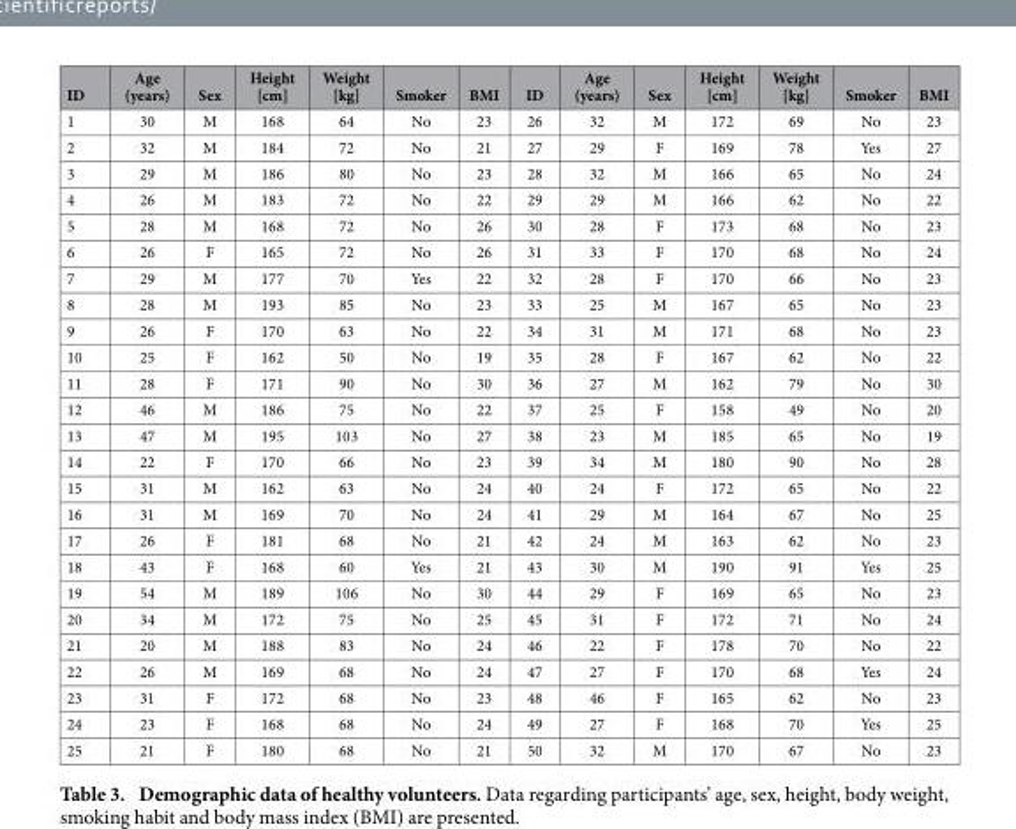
<table><thead><tr><td>ID</td><td>Age (years)</td><td>Sex</td><td>Height [cm]</td><td>Weight [kg]</td><td>Smoker</td><td>BMI</td><td>ID</td><td>Age (years)</td><td>Sex</td><td>Height [cm]</td><td>Weight [kg]</td><td>Smoker</td><td>BMI</td></tr></thead><tbody><tr><td>1</td><td>30</td><td>M</td><td>168</td><td>64</td><td>No</td><td>23</td><td>26</td><td>32</td><td>M</td><td>172</td><td>69</td><td>No</td><td>23</td></tr><tr><td>2</td><td>32</td><td>M</td><td>184</td><td>72</td><td>No</td><td>21</td><td>27</td><td>29</td><td>F</td><td>169</td><td>78</td><td>Yes</td><td>27</td></tr><tr><td>3</td><td>29</td><td>M</td><td>186</td><td>80</td><td>No</td><td>23</td><td>28</td><td>32</td><td>M</td><td>166</td><td>65</td><td>No</td><td>24</td></tr><tr><td>4</td><td>26</td><td>M</td><td>183</td><td>72</td><td>No</td><td>22</td><td>29</td><td>29</td><td>M</td><td>166</td><td>62</td><td>No</td><td>22</td></tr><tr><td>5</td><td>28</td><td>M</td><td>168</td><td>72</td><td>No</td><td>26</td><td>30</td><td>28</td><td>F</td><td>173</td><td>68</td><td>No</td><td>23</td></tr><tr><td>6</td><td>26</td><td>F</td><td>165</td><td>72</td><td>No</td><td>26</td><td>31</td><td>33</td><td>F</td><td>170</td><td>68</td><td>No</td><td>24</td></tr><tr><td>7</td><td>29</td><td>M</td><td>177</td><td>70</td><td>Yes</td><td>22</td><td>32</td><td>28</td><td>F</td><td>170</td><td>66</td><td>No</td><td>23</td></tr><tr><td>8</td><td>28</td><td>M</td><td>193</td><td>85</td><td>No</td><td>23</td><td>33</td><td>25</td><td>M</td><td>167</td><td>65</td><td>No</td><td>23</td></tr><tr><td>9</td><td>26</td><td>F</td><td>170</td><td>63</td><td>No</td><td>22</td><td>34</td><td>31</td><td>M</td><td>171</td><td>68</td><td>No</td><td>23</td></tr><tr><td>10</td><td>25</td><td>F</td><td>162</td><td>50</td><td>No</td><td>19</td><td>35</td><td>28</td><td>F</td><td>167</td><td>62</td><td>No</td><td>22</td></tr><tr><td>11</td><td>28</td><td>F</td><td>171</td><td>90</td><td>No</td><td>30</td><td>36</td><td>27</td><td>M</td><td>162</td><td>79</td><td>No</td><td>30</td></tr><tr><td>12</td><td>46</td><td>M</td><td>186</td><td>75</td><td>No</td><td>22</td><td>37</td><td>25</td><td>F</td><td>158</td><td>49</td><td>No</td><td>20</td></tr><tr><td>13</td><td>47</td><td>M</td><td>195</td><td>103</td><td>No</td><td>27</td><td>38</td><td>23</td><td>M</td><td>185</td><td>65</td><td>No</td><td>19</td></tr><tr><td>14</td><td>22</td><td>F</td><td>170</td><td>66</td><td>No</td><td>23</td><td>39</td><td>34</td><td>M</td><td>180</td><td>90</td><td>No</td><td>28</td></tr><tr><td>15</td><td>31</td><td>M</td><td>162</td><td>63</td><td>No</td><td>24</td><td>40</td><td>24</td><td>F</td><td>172</td><td>65</td><td>No</td><td>22</td></tr><tr><td>16</td><td>31</td><td>M</td><td>169</td><td>70</td><td>No</td><td>24</td><td>41</td><td>29</td><td>M</td><td>164</td><td>67</td><td>No</td><td>25</td></tr><tr><td>17</td><td>26</td><td>F</td><td>181</td><td>68</td><td>No</td><td>21</td><td>42</td><td>24</td><td>M</td><td>163</td><td>62</td><td>No</td><td>23</td></tr><tr><td>18</td><td>43</td><td>F</td><td>168</td><td>60</td><td>Yes</td><td>21</td><td>43</td><td>30</td><td>M</td><td>190</td><td>91</td><td>Yes</td><td>25</td></tr><tr><td>19</td><td>54</td><td>M</td><td>189</td><td>106</td><td>No</td><td>30</td><td>44</td><td>29</td><td>F</td><td>169</td><td>65</td><td>No</td><td>23</td></tr><tr><td>20</td><td>34</td><td>M</td><td>172</td><td>75</td><td>No</td><td>25</td><td>45</td><td>31</td><td>F</td><td>172</td><td>71</td><td>No</td><td>24</td></tr><tr><td>21</td><td>20</td><td>M</td><td>188</td><td>83</td><td>No</td><td>24</td><td>46</td><td>22</td><td>F</td><td>178</td><td>70</td><td>No</td><td>22</td></tr><tr><td>22</td><td>26</td><td>M</td><td>169</td><td>68</td><td>No</td><td>24</td><td>47</td><td>27</td><td>F</td><td>170</td><td>68</td><td>Yes</td><td>24</td></tr><tr><td>23</td><td>31</td><td>F</td><td>172</td><td>68</td><td>No</td><td>23</td><td>48</td><td>46</td><td>F</td><td>165</td><td>62</td><td>No</td><td>23</td></tr><tr><td>24</td><td>23</td><td>F</td><td>168</td><td>68</td><td>No</td><td>24</td><td>49</td><td>27</td><td>F</td><td>168</td><td>70</td><td>Yes</td><td>25</td></tr><tr><td>25</td><td>21</td><td>F</td><td>180</td><td>68</td><td>No</td><td>21</td><td>50</td><td>32</td><td>M</td><td>170</td><td>67</td><td>No</td><td>23</td></tr></tbody></table>